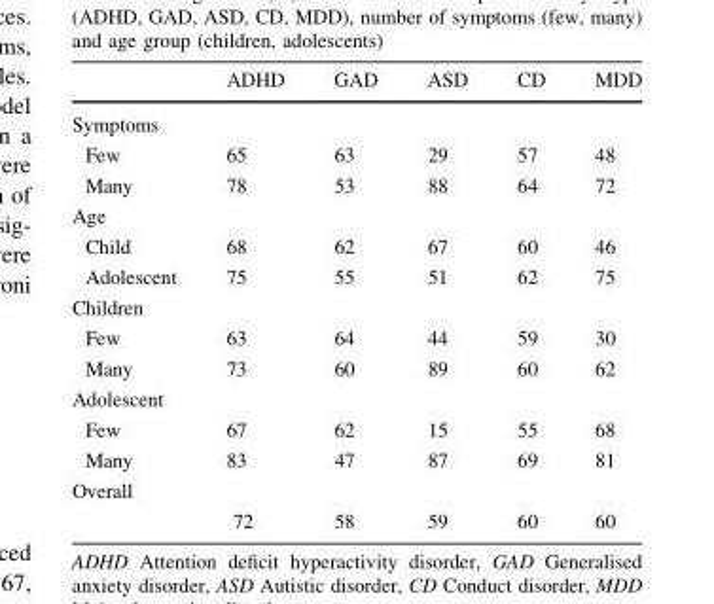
<table><thead><tr><td></td><td>ADHD</td><td>GAD</td><td>ASD</td><td>CD</td><td>MDD</td></tr></thead><tbody><tr><td colspan="6">Symptoms</td></tr><tr><td>Few</td><td>65</td><td>63</td><td>29</td><td>57</td><td>48</td></tr><tr><td>Many</td><td>78</td><td>53</td><td>88</td><td>64</td><td>72</td></tr><tr><td colspan="6">Age</td></tr><tr><td>Child</td><td>68</td><td>62</td><td>67</td><td>60</td><td>46</td></tr><tr><td>Adolescent</td><td>75</td><td>55</td><td>51</td><td>62</td><td>75</td></tr><tr><td colspan="6">Children</td></tr><tr><td>Few</td><td>63</td><td>64</td><td>44</td><td>59</td><td>30</td></tr><tr><td>Many</td><td>73</td><td>60</td><td>89</td><td>60</td><td>62</td></tr><tr><td colspan="6">Adolescent</td></tr><tr><td>Few</td><td>67</td><td>62</td><td>15</td><td>55</td><td>68</td></tr><tr><td>Many</td><td>83</td><td>47</td><td>87</td><td>69</td><td>81</td></tr><tr><td colspan="6">Overall</td></tr><tr><td></td><td>72</td><td>58</td><td>59</td><td>60</td><td>60</td></tr></tbody></table>